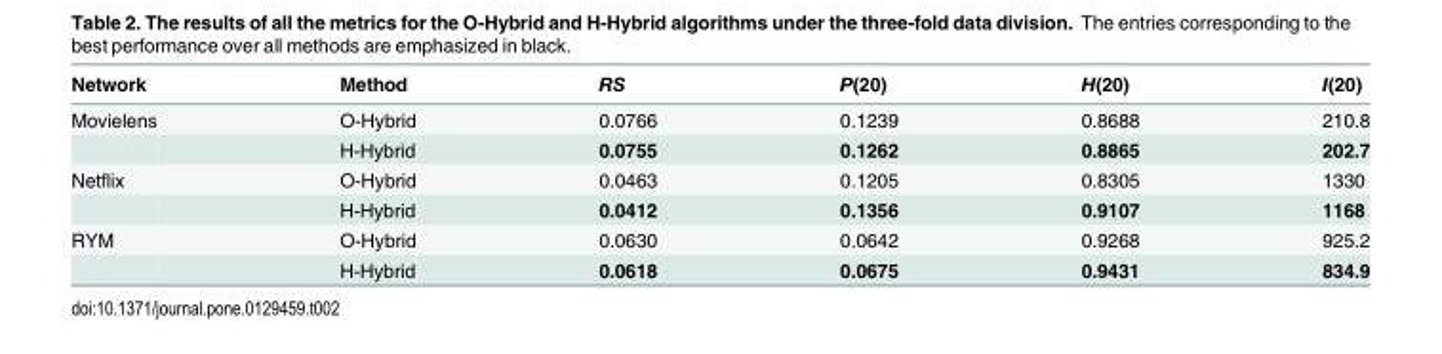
<table><thead><tr><td>Network</td><td>Method</td><td>RS</td><td>P(20)</td><td>H(20)</td><td>I(20)</td></tr></thead><tbody><tr><td rowspan="2">Movielens</td><td>O-Hybrid</td><td>0.0766</td><td>0.1239</td><td>0.8688</td><td>210.8</td></tr><tr><td>H-Hybrid</td><td>0.0755</td><td>0.1262</td><td>0.8865</td><td>202.7</td></tr><tr><td rowspan="2">Netflix</td><td>O-Hybrid</td><td>0.0463</td><td>0.1205</td><td>0.8305</td><td>1330</td></tr><tr><td>H-Hybrid</td><td>0.0412</td><td>0.1356</td><td>0.9107</td><td>1168</td></tr><tr><td rowspan="2">RYM</td><td>O-Hybrid</td><td>0.0630</td><td>0.0642</td><td>0.9268</td><td>925.2</td></tr><tr><td>H-Hybrid</td><td>0.0618</td><td>0.0675</td><td>0.9431</td><td>834.9</td></tr></tbody></table>